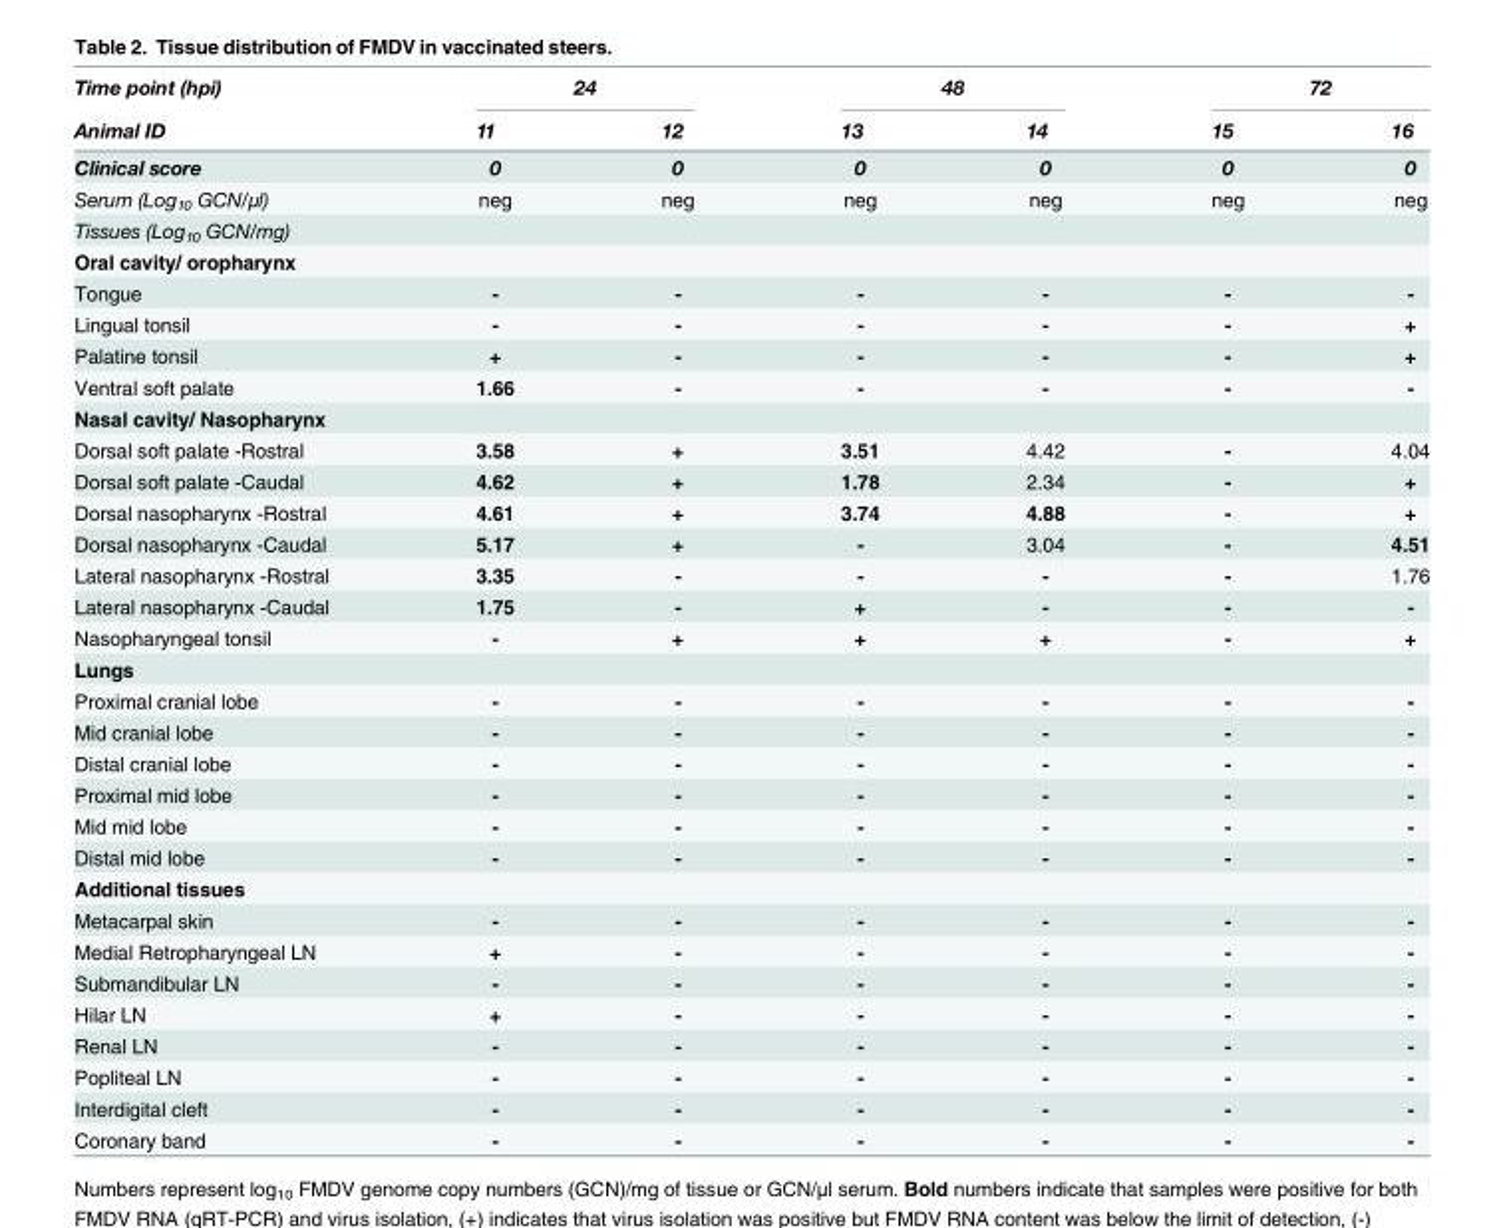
<table><thead><tr><td rowspan="2">Time point (hpi) Animal ID</td><td colspan="2">24</td><td colspan="2">48</td><td colspan="2">72</td></tr><tr><td>11</td><td>12</td><td>13</td><td>14</td><td>15</td><td>16</td></tr></thead><tbody><tr><td>Clinical score</td><td>0</td><td>0</td><td>0</td><td>0</td><td>0</td><td>0</td></tr><tr><td>Serum (Log<sub>10</sub> GCN/μl)</td><td>neg</td><td>neg</td><td>neg</td><td>neg</td><td>neg</td><td>neg</td></tr><tr><td colspan="7">Tissues (Log<sub>10</sub> GCN/mg)</td></tr><tr><td colspan="7">Oral cavity/ oropharynx</td></tr><tr><td>Tongue</td><td>-</td><td>-</td><td>-</td><td>-</td><td>-</td><td>-</td></tr><tr><td>Lingual tonsil</td><td>-</td><td>-</td><td>-</td><td>-</td><td>-</td><td>+</td></tr><tr><td>Palatine tonsil</td><td>+</td><td>-</td><td>-</td><td>-</td><td>-</td><td>+</td></tr><tr><td>Ventral soft palate</td><td>1.66</td><td>-</td><td>-</td><td>-</td><td>-</td><td>-</td></tr><tr><td colspan="7">Nasal cavity/ Nasopharynx</td></tr><tr><td>Dorsal soft palate -Rostral</td><td>3.58</td><td>+</td><td>3.51</td><td>4.42</td><td>-</td><td>4.04</td></tr><tr><td>Dorsal soft palate -Caudal</td><td>4.62</td><td>+</td><td>1.78</td><td>2.34</td><td>-</td><td>+</td></tr><tr><td>Dorsal nasopharynx -Rostral</td><td>4.61</td><td>+</td><td>3.74</td><td>4.88</td><td>-</td><td>+</td></tr><tr><td>Dorsal nasopharynx -Caudal</td><td>5.17</td><td>+</td><td>-</td><td>3.04</td><td>-</td><td>4.51</td></tr><tr><td>Lateral nasopharynx -Rostral</td><td>3.35</td><td>-</td><td>-</td><td>-</td><td>-</td><td>1.76</td></tr><tr><td>Lateral nasopharynx -Caudal</td><td>1.75</td><td>-</td><td>+</td><td>-</td><td>-</td><td>-</td></tr><tr><td>Nasopharyngeal tonsil</td><td>-</td><td>+</td><td>+</td><td>+</td><td>-</td><td>+</td></tr><tr><td colspan="7">Lungs</td></tr><tr><td>Proximal cranial lobe</td><td>-</td><td>-</td><td>-</td><td>-</td><td>-</td><td>-</td></tr><tr><td>Mid cranial lobe</td><td>-</td><td>-</td><td>-</td><td>-</td><td>-</td><td>-</td></tr><tr><td>Distal cranial lobe</td><td>-</td><td>-</td><td>-</td><td>-</td><td>-</td><td>-</td></tr><tr><td>Proximal mid lobe</td><td>-</td><td>-</td><td>-</td><td>-</td><td>-</td><td>-</td></tr><tr><td>Mid mid lobe</td><td>-</td><td>-</td><td>-</td><td>-</td><td>-</td><td>-</td></tr><tr><td>Distal mid lobe</td><td>-</td><td>-</td><td>-</td><td>-</td><td>-</td><td>-</td></tr><tr><td colspan="7">Additional tissues</td></tr><tr><td>Metacarpal skin</td><td>-</td><td>-</td><td>-</td><td>-</td><td>-</td><td>-</td></tr><tr><td>Medial Retropharyngeal LN</td><td>+</td><td>-</td><td>-</td><td>-</td><td>-</td><td>-</td></tr><tr><td>Submandibular LN</td><td>-</td><td>-</td><td>-</td><td>-</td><td>-</td><td>-</td></tr><tr><td>Hilar LN</td><td>+</td><td>-</td><td>-</td><td>-</td><td>-</td><td>-</td></tr><tr><td>Renal LN</td><td>-</td><td>-</td><td>-</td><td>-</td><td>-</td><td>-</td></tr><tr><td>Popliteal LN</td><td>-</td><td>-</td><td>-</td><td>-</td><td>-</td><td>-</td></tr><tr><td>Interdigital cleft</td><td>-</td><td>-</td><td>-</td><td>-</td><td>-</td><td>-</td></tr><tr><td>Coronary band</td><td>-</td><td>-</td><td>-</td><td>-</td><td>-</td><td>-</td></tr></tbody></table>